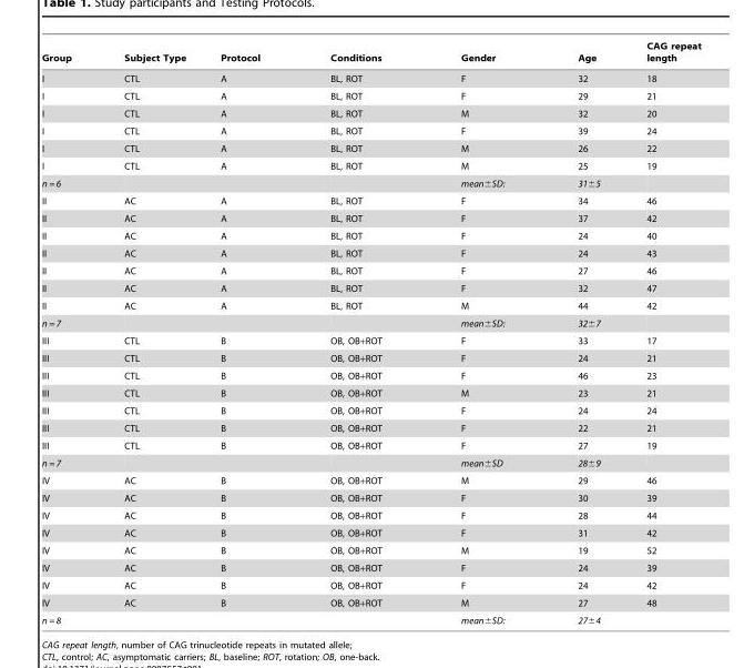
<table><thead><tr><td>Group</td><td>Subject Type</td><td>Protocol</td><td>Conditions</td><td>Gender</td><td>Age</td><td>CAG repeat length</td></tr></thead><tbody><tr><td>I</td><td>CTL</td><td>A</td><td>BL, ROT</td><td>F</td><td>32</td><td>18</td></tr><tr><td>I</td><td>CTL</td><td>A</td><td>BL, ROT</td><td>F</td><td>29</td><td>21</td></tr><tr><td>I</td><td>CTL</td><td>A</td><td>BL, ROT</td><td>M</td><td>32</td><td>20</td></tr><tr><td>I</td><td>CTL</td><td>A</td><td>BL, ROT</td><td>F</td><td>39</td><td>24</td></tr><tr><td>I</td><td>CTL</td><td>A</td><td>BL, ROT</td><td>M</td><td>26</td><td>22</td></tr><tr><td>I</td><td>CTL</td><td>A</td><td>BL, ROT</td><td>M</td><td>25</td><td>19</td></tr><tr><td>n = 6</td><td></td><td></td><td></td><td>mean±SD:</td><td>31±5</td><td></td></tr><tr><td>II</td><td>AC</td><td>A</td><td>BL, ROT</td><td>F</td><td>34</td><td>46</td></tr><tr><td>II</td><td>AC</td><td>A</td><td>BL, ROT</td><td>F</td><td>37</td><td>42</td></tr><tr><td>II</td><td>AC</td><td>A</td><td>BL, ROT</td><td>F</td><td>24</td><td>40</td></tr><tr><td>II</td><td>AC</td><td>A</td><td>BL, ROT</td><td>F</td><td>24</td><td>43</td></tr><tr><td>II</td><td>AC</td><td>A</td><td>BL, ROT</td><td>F</td><td>27</td><td>46</td></tr><tr><td>II</td><td>AC</td><td>A</td><td>BL, ROT</td><td>F</td><td>32</td><td>47</td></tr><tr><td>II</td><td>AC</td><td>A</td><td>BL, ROT</td><td>M</td><td>44</td><td>42</td></tr><tr><td>n = 7</td><td></td><td></td><td></td><td>mean±SD:</td><td>32±7</td><td></td></tr><tr><td>III</td><td>CTL</td><td>B</td><td>OB, OB+ROT</td><td>F</td><td>33</td><td>17</td></tr><tr><td>III</td><td>CTL</td><td>B</td><td>OB, OB+ROT</td><td>F</td><td>24</td><td>21</td></tr><tr><td>III</td><td>CTL</td><td>B</td><td>OB, OB+ROT</td><td>F</td><td>46</td><td>23</td></tr><tr><td>III</td><td>CTL</td><td>B</td><td>OB, OB+ROT</td><td>M</td><td>23</td><td>21</td></tr><tr><td>III</td><td>CTL</td><td>B</td><td>OB, OB+ROT</td><td>F</td><td>24</td><td>24</td></tr><tr><td>III</td><td>CTL</td><td>B</td><td>OB, OB+ROT</td><td>F</td><td>22</td><td>21</td></tr><tr><td>III</td><td>CTL</td><td>B</td><td>OB, OB+ROT</td><td>F</td><td>27</td><td>19</td></tr><tr><td>n = 7</td><td></td><td></td><td></td><td>mean±SD</td><td>28±9</td><td></td></tr><tr><td>IV</td><td>AC</td><td>B</td><td>OB, OB+ROT</td><td>M</td><td>29</td><td>46</td></tr><tr><td>IV</td><td>AC</td><td>B</td><td>OB, OB+ROT</td><td>F</td><td>30</td><td>39</td></tr><tr><td>IV</td><td>AC</td><td>B</td><td>OB, OB+ROT</td><td>F</td><td>28</td><td>44</td></tr><tr><td>IV</td><td>AC</td><td>B</td><td>OB, OB+ROT</td><td>F</td><td>31</td><td>42</td></tr><tr><td>IV</td><td>AC</td><td>B</td><td>OB, OB+ROT</td><td>M</td><td>19</td><td>52</td></tr><tr><td>IV</td><td>AC</td><td>B</td><td>OB, OB+ROT</td><td>F</td><td>24</td><td>39</td></tr><tr><td>IV</td><td>AC</td><td>B</td><td>OB, OB+ROT</td><td>F</td><td>24</td><td>42</td></tr><tr><td>IV</td><td>AC</td><td>B</td><td>OB, OB+ROT</td><td>M</td><td>27</td><td>48</td></tr><tr><td>n = 8</td><td></td><td></td><td></td><td>mean±SD:</td><td>27±4</td><td></td></tr></tbody></table>